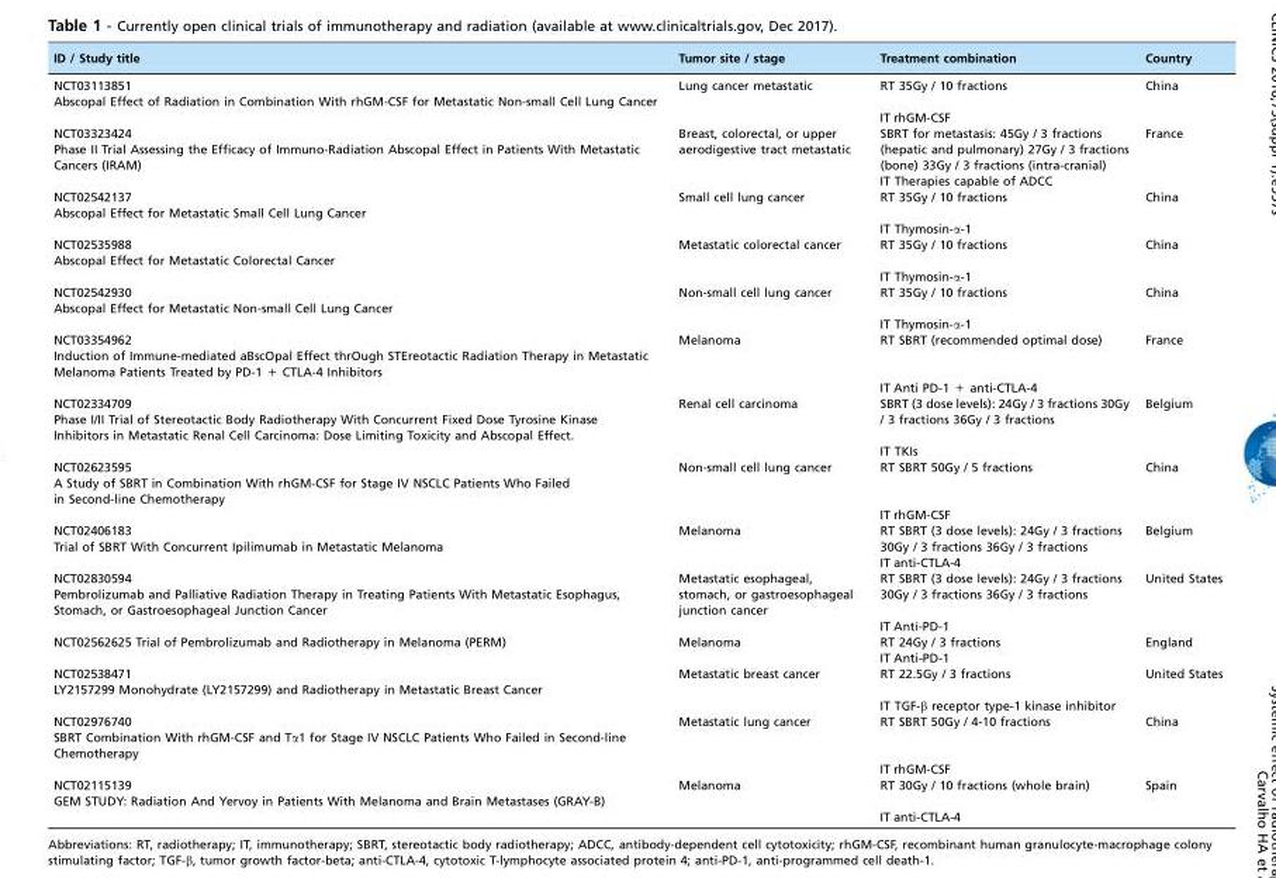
<table><thead><tr><td>ID / Study title</td><td>Tumor site / stage</td><td>Treatment combination</td><td>Country</td></tr></thead><tbody><tr><td rowspan="2">NCT03113851 Abscopal Effect of Radiation in Combination With rhGM-CSF for Metastatic Non-small Cell Lung Cancer</td><td>Lung cancer metastatic</td><td>RT 35Gy / 10 fractions</td><td>China</td></tr><tr><td></td><td>IT rhGM-CSF</td><td></td></tr><tr><td rowspan="2">NCT03323424 Phase II Trial Assessing the Efficacy of Immuno-Radiation Abscopal Effect in Patients With Metastatic Cancers (IRAM)</td><td>Breast, colorectal, or upper aerodigestive tract metastatic</td><td>SBRT for metastasis: 45Gy / 3 fractions (hepatic and pulmonary) 27Gy / 3 fractions (bone) 33Gy / 3 fractions (intra-cranial)</td><td>France</td></tr><tr><td></td><td>IT Therapies capable of ADCC</td><td></td></tr><tr><td rowspan="2">NCT02542137 Abscopal Effect for Metastatic Small Cell Lung Cancer</td><td>Small cell lung cancer</td><td>RT 35Gy / 10 fractions</td><td>China</td></tr><tr><td></td><td>IT Thymosin-α-1</td><td></td></tr><tr><td rowspan="2">NCT02535988 Abscopal Effect for Metastatic Colorectal Cancer</td><td>Metastatic colorectal cancer</td><td>RT 35Gy / 10 fractions</td><td>China</td></tr><tr><td></td><td>IT Thymosin-α-1</td><td></td></tr><tr><td rowspan="2">NCT02542930 Abscopal Effect for Metastatic Non-small Cell Lung Cancer</td><td>Non-small cell lung cancer</td><td>RT 35Gy / 10 fractions</td><td>China</td></tr><tr><td></td><td>IT Thymosin-α-1</td><td></td></tr><tr><td rowspan="2">NCT03354962 Induction of Immune-mediated aBscOpal Effect thrOugh STEreotactic Radiation Therapy in Metastatic Melanoma Patients Treated by PD-1 + CTLA-4 Inhibitors</td><td>Melanoma</td><td>RT SBRT (recommended optimal dose)</td><td>France</td></tr><tr><td></td><td>IT Anti PD-1 + anti-CTLA-4</td><td></td></tr><tr><td rowspan="2">NCT02334709 Phase I/II Trial of Stereotactic Body Radiotherapy With Concurrent Fixed Dose Tyrosine Kinase Inhibitors in Metastatic Renal Cell Carcinoma: Dose Limiting Toxicity and Abscopal Effect.</td><td>Renal cell carcinoma</td><td>SBRT (3 dose levels): 24Gy / 3 fractions 30Gy / 3 fractions 36Gy / 3 fractions</td><td>Belgium</td></tr><tr><td></td><td>IT TKIs</td><td></td></tr><tr><td rowspan="2">NCT02623595 A Study of SBRT in Combination With rhGM-CSF for Stage IV NSCLC Patients Who Failed in Second-line Chemotherapy</td><td>Non-small cell lung cancer</td><td>RT SBRT 50Gy / 5 fractions</td><td>China</td></tr><tr><td></td><td>IT rhGM-CSF</td><td></td></tr><tr><td rowspan="2">NCT02406183 Trial of SBRT With Concurrent Ipilimumab in Metastatic Melanoma</td><td>Melanoma</td><td>RT SBRT (3 dose levels): 24Gy / 3 fractions 30Gy / 3 fractions 36Gy / 3 fractions</td><td>Belgium</td></tr><tr><td></td><td>IT anti-CTLA-4</td><td></td></tr><tr><td rowspan="2">NCT02830594 Pembrolizumab and Palliative Radiation Therapy in Treating Patients With Metastatic Esophagus, Stomach, or Gastroesophageal Junction Cancer</td><td>Metastatic esophageal, stomach, or gastroesophageal junction cancer</td><td>RT SBRT (3 dose levels): 24Gy / 3 fractions 30Gy / 3 fractions 36Gy / 3 fractions</td><td>United States</td></tr><tr><td></td><td>IT Anti-PD-1</td><td></td></tr><tr><td rowspan="2">NCT02562625 Trial of Pembrolizumab and Radiotherapy in Melanoma (PERM)</td><td>Melanoma</td><td>RT 24Gy / 3 fractions</td><td>England</td></tr><tr><td></td><td>IT Anti-PD-1</td><td></td></tr><tr><td rowspan="2">NCT02538471 LY2157299 Monohydrate (LY2157299) and Radiotherapy in Metastatic Breast Cancer</td><td>Metastatic breast cancer</td><td>RT 22.5Gy / 3 fractions</td><td>United States</td></tr><tr><td></td><td>IT TGF-β receptor type-1 kinase inhibitor</td><td></td></tr><tr><td rowspan="2">NCT02976740 SBRT Combination With rhGM-CSF and Tα1 for Stage IV NSCLC Patients Who Failed in Second-line Chemotherapy</td><td>Metastatic lung cancer</td><td>RT SBRT 50Gy / 4-10 fractions</td><td>China</td></tr><tr><td></td><td>IT rhGM-CSF</td><td></td></tr><tr><td rowspan="2">NCT02115139 GEM STUDY: Radiation And Yervoy in Patients With Melanoma and Brain Metastases (GRAY-B)</td><td>Melanoma</td><td>RT 30Gy / 10 fractions (whole brain)</td><td>Spain</td></tr><tr><td></td><td>IT anti-CTLA-4</td><td></td></tr></tbody></table>